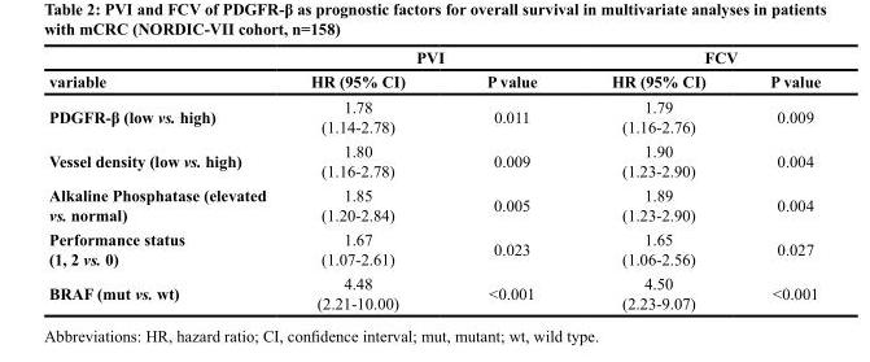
<table><thead><tr><td rowspan="2">variable</td><td colspan="2">PVI</td><td colspan="2">FCV</td></tr><tr><td>HR (95% CI)</td><td>P value</td><td>HR (95% CI)</td><td>P value</td></tr></thead><tbody><tr><td>PDGFR-β (low vs. high)</td><td>1.78 (1.14-2.78)</td><td>0.011</td><td>1.79 (1.16-2.76)</td><td>0.009</td></tr><tr><td>Vessel density (low vs. high)</td><td>1.80 (1.16-2.78)</td><td>0.009</td><td>1.90 (1.23-2.90)</td><td>0.004</td></tr><tr><td>Alkaline Phosphatase (elevated vs. normal)</td><td>1.85 (1.20-2.84)</td><td>0.005</td><td>1.89 (1.23-2.90)</td><td>0.004</td></tr><tr><td>Performance status (1, 2 vs. 0)</td><td>1.67 (1.07-2.61)</td><td>0.023</td><td>1.65 (1.06-2.56)</td><td>0.027</td></tr><tr><td>BRAF (mut vs. wt)</td><td>4.48 (2.21-10.00)</td><td>&lt;0.001</td><td>4.50 (2.23-9.07)</td><td>&lt;0.001</td></tr></tbody></table>